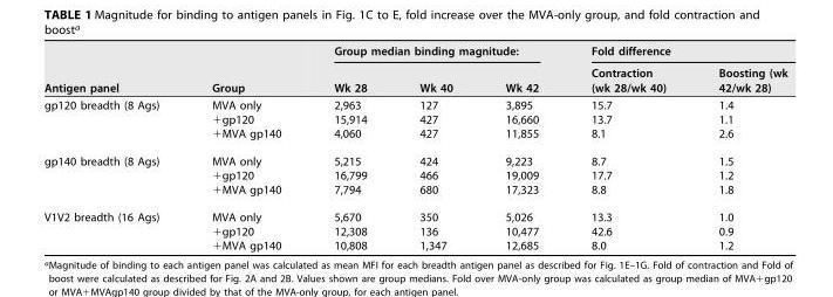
<table><thead><tr><td rowspan="2">Antigen panel</td><td rowspan="2">Group</td><td colspan="3">Group median binding magnitude:</td><td colspan="2">Fold difference</td></tr><tr><td>Wk 28</td><td>Wk 40</td><td>Wk 42</td><td>Contraction (wk 28/wk 40)</td><td>Boosting (wk 42/wk 28)</td></tr></thead><tbody><tr><td rowspan="3">gp120 breadth (8 Ags)</td><td>MVA only</td><td>2,963</td><td>127</td><td>3,895</td><td>15.7</td><td>1.4</td></tr><tr><td>+gp120</td><td>15,914</td><td>427</td><td>16,660</td><td>13.7</td><td>1.1</td></tr><tr><td>+MVA gp140</td><td>4,060</td><td>427</td><td>11,855</td><td>8.1</td><td>2.6</td></tr><tr><td rowspan="3">gp140 breadth (8 Ags)</td><td>MVA only</td><td>5,215</td><td>424</td><td>9,223</td><td>8.7</td><td>1.5</td></tr><tr><td>+gp120</td><td>16,799</td><td>466</td><td>19,009</td><td>17.7</td><td>1.2</td></tr><tr><td>+MVA gp140</td><td>7,794</td><td>680</td><td>17,323</td><td>8.8</td><td>1.8</td></tr><tr><td rowspan="3">V1V2 breadth (16 Ags)</td><td>MVA only</td><td>5,670</td><td>350</td><td>5,026</td><td>13.3</td><td>1.0</td></tr><tr><td>+gp120</td><td>12,308</td><td>136</td><td>10,477</td><td>42.6</td><td>0.9</td></tr><tr><td>+MVA gp140</td><td>10,808</td><td>1,347</td><td>12,685</td><td>8.0</td><td>1.2</td></tr></tbody></table>